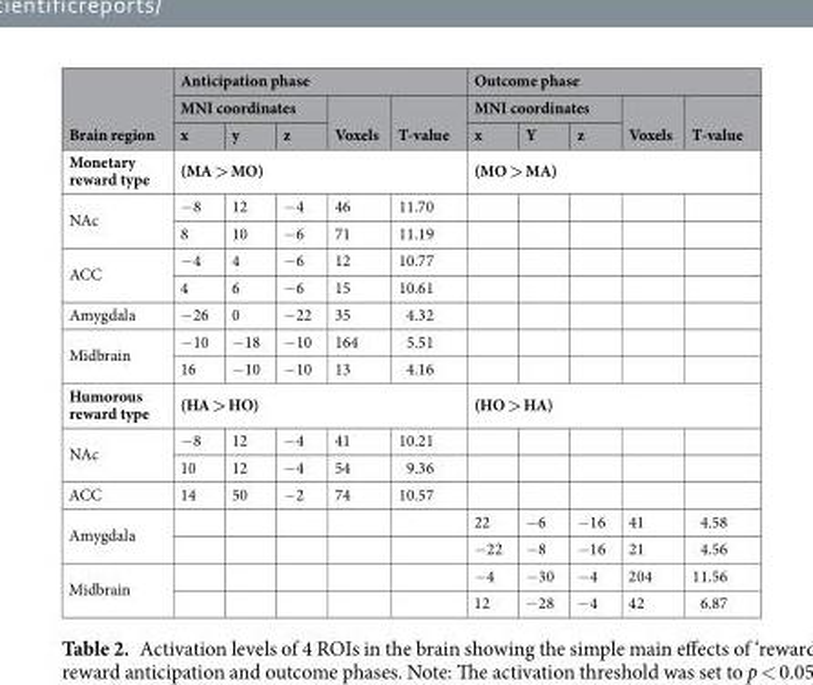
<table><thead><tr><td rowspan="3">Brain region</td><td colspan="5">Anticipation phase</td><td colspan="5">Outcome phase</td></tr><tr><td colspan="3">MNI coordinates</td><td rowspan="2">Voxels</td><td rowspan="2">T-value</td><td colspan="3">MNI coordinates</td><td rowspan="2">Voxels</td><td rowspan="2">T-value</td></tr><tr><td>x</td><td>y</td><td>z</td><td>x</td><td>Y</td><td>z</td></tr></thead><tbody><tr><td>Monetary reward type</td><td colspan="5">(MA &gt; MO)</td><td colspan="5">(MO &gt; MA)</td></tr><tr><td rowspan="2">NAc</td><td>−8</td><td>12</td><td>−4</td><td>46</td><td>11.70</td><td></td><td></td><td></td><td></td><td></td></tr><tr><td>8</td><td>10</td><td>−6</td><td>71</td><td>11.19</td><td></td><td></td><td></td><td></td><td></td></tr><tr><td rowspan="2">ACC</td><td>−4</td><td>4</td><td>−6</td><td>12</td><td>10.77</td><td></td><td></td><td></td><td></td><td></td></tr><tr><td>4</td><td>6</td><td>−6</td><td>15</td><td>10.61</td><td></td><td></td><td></td><td></td><td></td></tr><tr><td>Amygdala</td><td>−26</td><td>0</td><td>−22</td><td>35</td><td>4.32</td><td></td><td></td><td></td><td></td><td></td></tr><tr><td rowspan="2">Midbrain</td><td>−10</td><td>−18</td><td>−10</td><td>164</td><td>5.51</td><td></td><td></td><td></td><td></td><td></td></tr><tr><td>16</td><td>−10</td><td>−10</td><td>13</td><td>4.16</td><td></td><td></td><td></td><td></td><td></td></tr><tr><td>Humorous reward type</td><td colspan="5">(HA &gt; HO)</td><td colspan="5">(HO &gt; HA)</td></tr><tr><td rowspan="2">NAc</td><td>−8</td><td>12</td><td>−4</td><td>41</td><td>10.21</td><td></td><td></td><td></td><td></td><td></td></tr><tr><td>10</td><td>12</td><td>−4</td><td>54</td><td>9.36</td><td></td><td></td><td></td><td></td><td></td></tr><tr><td>ACC</td><td>14</td><td>50</td><td>−2</td><td>74</td><td>10.57</td><td></td><td></td><td></td><td></td><td></td></tr><tr><td rowspan="2">Amygdala</td><td></td><td></td><td></td><td></td><td></td><td>22</td><td>−6</td><td>−16</td><td>41</td><td>4.58</td></tr><tr><td></td><td></td><td></td><td></td><td></td><td>−22</td><td>−8</td><td>−16</td><td>21</td><td>4.56</td></tr><tr><td rowspan="2">Midbrain</td><td></td><td></td><td></td><td></td><td></td><td>−4</td><td>−30</td><td>−4</td><td>204</td><td>11.56</td></tr><tr><td></td><td></td><td></td><td></td><td></td><td>12</td><td>−28</td><td>−4</td><td>42</td><td>6.87</td></tr></tbody></table>